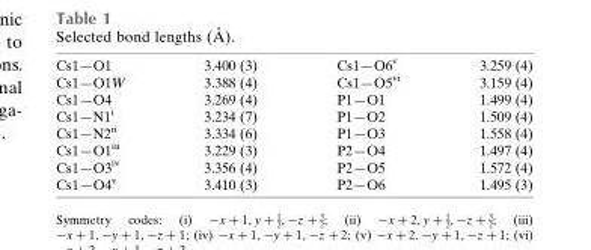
<table><tbody><tr><td>Cs1—O1</td><td>3.400 (3)</td><td>Cs1—O6<sup>v</sup></td><td>3.259 (4)</td></tr><tr><td>Cs1—O1W</td><td>3.388 (4)</td><td>Cs1—O5<sup>vi</sup></td><td>3.159 (4)</td></tr><tr><td>Cs1—O4</td><td>3.269 (4)</td><td>P1—O1</td><td>1.499 (4)</td></tr><tr><td>Cs1—N1<sup>i</sup></td><td>3.234 (7)</td><td>P1—O2</td><td>1.509 (4)</td></tr><tr><td>Cs1—N2<sup>ii</sup></td><td>3.334 (6)</td><td>P1—O3</td><td>1.558 (4)</td></tr><tr><td>Cs1—O1<sup>iii</sup></td><td>3.229 (3)</td><td>P2—O4</td><td>1.497 (4)</td></tr><tr><td>Cs1—O3<sup>iv</sup></td><td>3.356 (4)</td><td>P2—O5</td><td>1.572 (4)</td></tr><tr><td>Cs1—O4<sup>v</sup></td><td>3.410 (3)</td><td>P2—O6</td><td>1.495 (3)</td></tr></tbody></table>